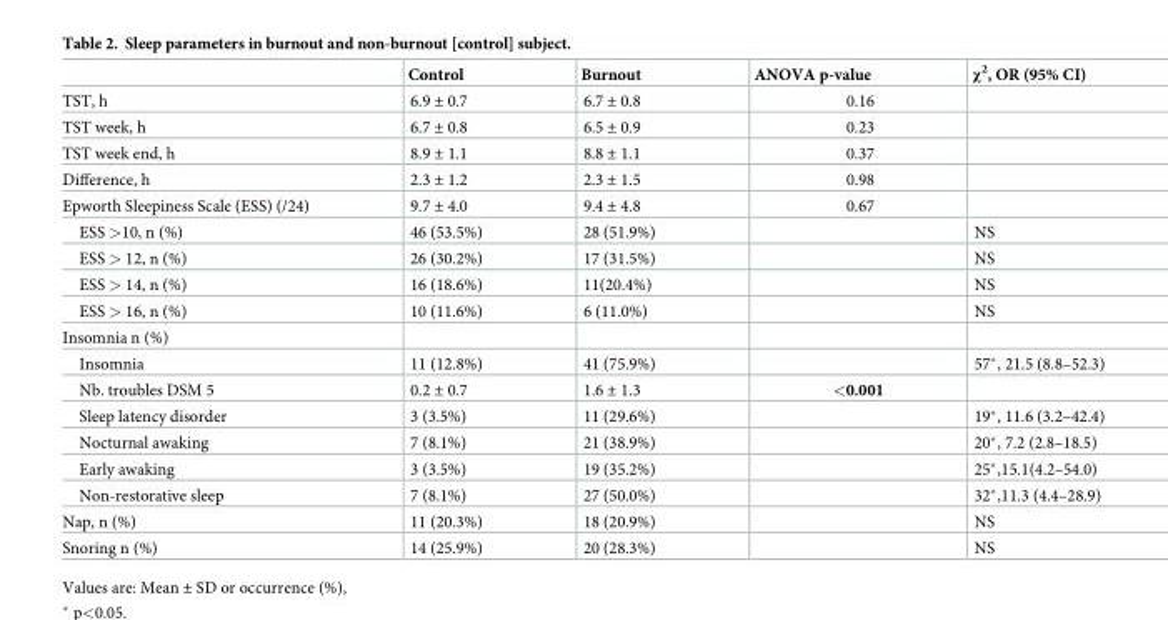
<table><thead><tr><td></td><td>Control</td><td>Burnout</td><td>ANOVA p-value</td><td>χ<sup>2</sup>, OR (95% CI)</td></tr></thead><tbody><tr><td>TST, h</td><td>6.9 ± 0.7</td><td>6.7 ± 0.8</td><td>0.16</td><td></td></tr><tr><td>TST week, h</td><td>6.7 ± 0.8</td><td>6.5 ± 0.9</td><td>0.23</td><td></td></tr><tr><td>TST week end, h</td><td>8.9 ± 1.1</td><td>8.8 ± 1.1</td><td>0.37</td><td></td></tr><tr><td>Difference, h</td><td>2.3 ± 1.2</td><td>2.3 ± 1.5</td><td>0.98</td><td></td></tr><tr><td>Epworth Sleepiness Scale (ESS) (/24)</td><td>9.7 ± 4.0</td><td>9.4 ± 4.8</td><td>0.67</td><td></td></tr><tr><td>ESS &gt;10, n (%)</td><td>46 (53.5%)</td><td>28 (51.9%)</td><td></td><td>NS</td></tr><tr><td>ESS &gt; 12, n (%)</td><td>26 (30.2%)</td><td>17 (31.5%)</td><td></td><td>NS</td></tr><tr><td>ESS &gt; 14, n (%)</td><td>16 (18.6%)</td><td>11(20.4%)</td><td></td><td>NS</td></tr><tr><td>ESS &gt; 16, n (%)</td><td>10 (11.6%)</td><td>6 (11.0%)</td><td></td><td>NS</td></tr><tr><td colspan="5">Insomnia n (%)</td></tr><tr><td>Insomnia</td><td>11 (12.8%)</td><td>41 (75.9%)</td><td></td><td>57*, 21.5 (8.8–52.3)</td></tr><tr><td>Nb. troubles DSM 5</td><td>0.2 ± 0.7</td><td>1.6 ± 1.3</td><td>&lt;0.001</td><td></td></tr><tr><td>Sleep latency disorder</td><td>3 (3.5%)</td><td>11 (29.6%)</td><td></td><td>19*, 11.6 (3.2–42.4)</td></tr><tr><td>Nocturnal awaking</td><td>7 (8.1%)</td><td>21 (38.9%)</td><td></td><td>20*, 7.2 (2.8–18.5)</td></tr><tr><td>Early awaking</td><td>3 (3.5%)</td><td>19 (35.2%)</td><td></td><td>25*,15.1(4.2–54.0)</td></tr><tr><td>Non-restorative sleep</td><td>7 (8.1%)</td><td>27 (50.0%)</td><td></td><td>32*,11.3 (4.4–28.9)</td></tr><tr><td>Nap, n (%)</td><td>11 (20.3%)</td><td>18 (20.9%)</td><td></td><td>NS</td></tr><tr><td>Snoring n (%)</td><td>14 (25.9%)</td><td>20 (28.3%)</td><td></td><td>NS</td></tr></tbody></table>